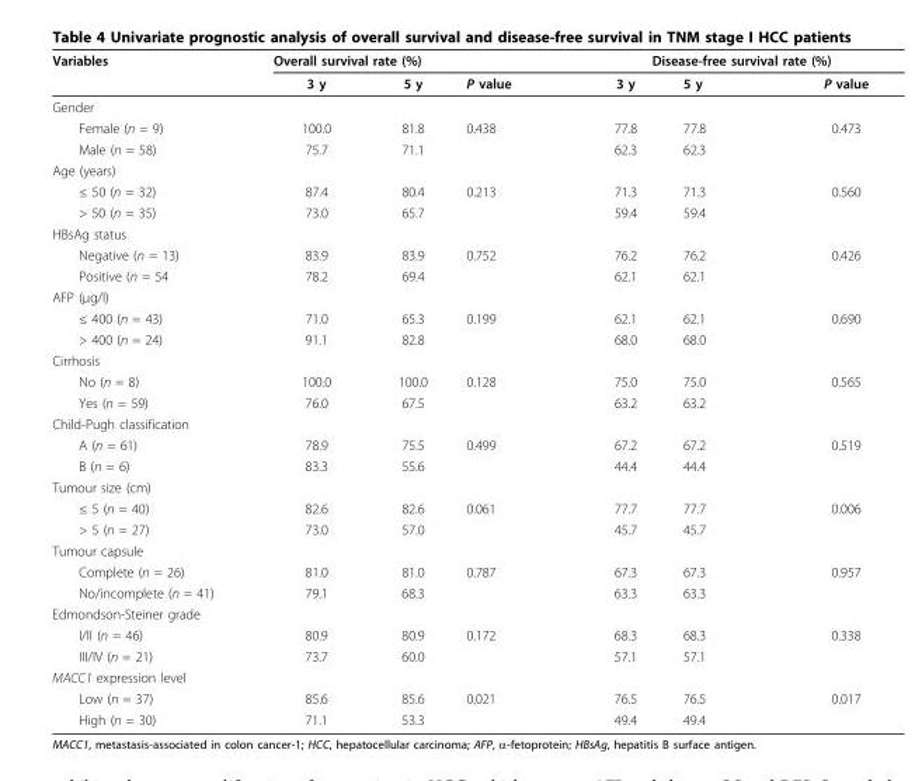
<table><thead><tr><td rowspan="2">Variables</td><td colspan="3">Overall survival rate (%)</td><td colspan="3">Disease-free survival rate (%)</td></tr><tr><td>3 y</td><td>5 y</td><td>P value</td><td>3 y</td><td>5 y</td><td>P value</td></tr></thead><tbody><tr><td colspan="7">Gender</td></tr><tr><td>Female (n = 9)</td><td>100.0</td><td>81.8</td><td>0.438</td><td>77.8</td><td>77.8</td><td>0.473</td></tr><tr><td>Male (n = 58)</td><td>75.7</td><td>71.1</td><td></td><td>62.3</td><td>62.3</td><td></td></tr><tr><td colspan="7">Age (years)</td></tr><tr><td>≤ 50 (n = 32)</td><td>87.4</td><td>80.4</td><td>0.213</td><td>71.3</td><td>71.3</td><td>0.560</td></tr><tr><td>&gt; 50 (n = 35)</td><td>73.0</td><td>65.7</td><td></td><td>59.4</td><td>59.4</td><td></td></tr><tr><td colspan="7">HBsAg status</td></tr><tr><td>Negative (n = 13)</td><td>83.9</td><td>83.9</td><td>0.752</td><td>76.2</td><td>76.2</td><td>0.426</td></tr><tr><td>Positive (n = 54</td><td>78.2</td><td>69.4</td><td></td><td>62.1</td><td>62.1</td><td></td></tr><tr><td colspan="7">AFP (μg/l)</td></tr><tr><td>≤ 400 (n = 43)</td><td>71.0</td><td>65.3</td><td>0.199</td><td>62.1</td><td>62.1</td><td>0.690</td></tr><tr><td>&gt; 400 (n = 24)</td><td>91.1</td><td>82.8</td><td></td><td>68.0</td><td>68.0</td><td></td></tr><tr><td colspan="7">Cirrhosis</td></tr><tr><td>No (n = 8)</td><td>100.0</td><td>100.0</td><td>0.128</td><td>75.0</td><td>75.0</td><td>0.565</td></tr><tr><td>Yes (n = 59)</td><td>76.0</td><td>67.5</td><td></td><td>63.2</td><td>63.2</td><td></td></tr><tr><td colspan="7">Child-Pugh classification</td></tr><tr><td>A (n = 61)</td><td>78.9</td><td>75.5</td><td>0.499</td><td>67.2</td><td>67.2</td><td>0.519</td></tr><tr><td>B (n = 6)</td><td>83.3</td><td>55.6</td><td></td><td>44.4</td><td>44.4</td><td></td></tr><tr><td colspan="7">Tumour size (cm)</td></tr><tr><td>≤ 5 (n = 40)</td><td>82.6</td><td>82.6</td><td>0.061</td><td>77.7</td><td>77.7</td><td>0.006</td></tr><tr><td>&gt; 5 (n = 27)</td><td>73.0</td><td>57.0</td><td></td><td>45.7</td><td>45.7</td><td></td></tr><tr><td colspan="7">Tumour capsule</td></tr><tr><td>Complete (n = 26)</td><td>81.0</td><td>81.0</td><td>0.787</td><td>67.3</td><td>67.3</td><td>0.957</td></tr><tr><td>No/incomplete (n = 41)</td><td>79.1</td><td>68.3</td><td></td><td>63.3</td><td>63.3</td><td></td></tr><tr><td colspan="7">Edmondson-Steiner grade</td></tr><tr><td>I/II (n = 46)</td><td>80.9</td><td>80.9</td><td>0.172</td><td>68.3</td><td>68.3</td><td>0.338</td></tr><tr><td>III/IV (n = 21)</td><td>73.7</td><td>60.0</td><td></td><td>57.1</td><td>57.1</td><td></td></tr><tr><td colspan="7">MACC1 expression level</td></tr><tr><td>Low (n = 37)</td><td>85.6</td><td>85.6</td><td>0.021</td><td>76.5</td><td>76.5</td><td>0.017</td></tr><tr><td>High (n = 30)</td><td>71.1</td><td>53.3</td><td></td><td>49.4</td><td>49.4</td><td></td></tr></tbody></table>